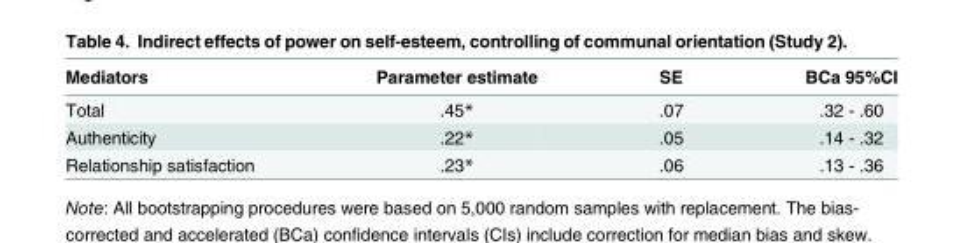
<table><thead><tr><td>Mediators</td><td>Parameter estimate</td><td>SE</td><td>BCa 95%CI</td></tr></thead><tbody><tr><td>Total</td><td>.45*</td><td>.07</td><td>.32 - .60</td></tr><tr><td>Authenticity</td><td>.22*</td><td>.05</td><td>.14 - .32</td></tr><tr><td>Relationship satisfaction</td><td>.23*</td><td>.06</td><td>.13 - .36</td></tr></tbody></table>